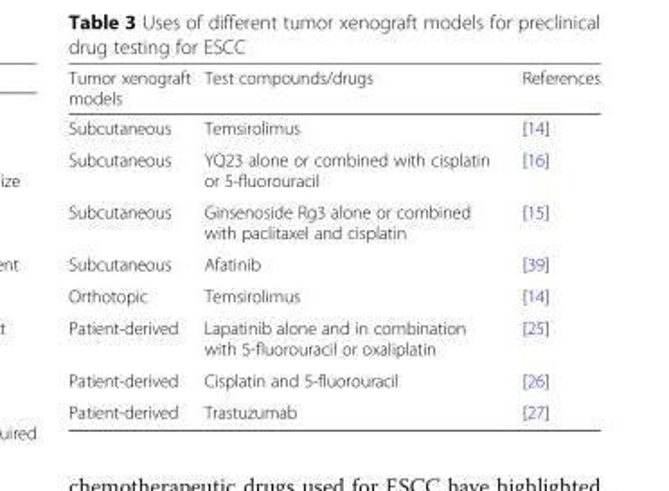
<table><thead><tr><td>Tumor xenograft models</td><td>Test compounds/drugs</td><td>References</td></tr></thead><tbody><tr><td>Subcutaneous</td><td>Temsirolimus</td><td>[14]</td></tr><tr><td>Subcutaneous</td><td>YQ23 alone or combined with cisplatin or 5-fluorouracil</td><td>[16]</td></tr><tr><td>Subcutaneous</td><td>Ginsenoside Rg3 alone or combined with paclitaxel and cisplatin</td><td>[15]</td></tr><tr><td>Subcutaneous</td><td>Afatinib</td><td>[39]</td></tr><tr><td>Orthotopic</td><td>Temsirolimus</td><td>[14]</td></tr><tr><td>Patient-derived</td><td>Lapatinib alone and in combination with 5-fluorouracil or oxaliplatin</td><td>[25]</td></tr><tr><td>Patient-derived</td><td>Cisplatin and 5-fluorouracil</td><td>[26]</td></tr><tr><td>Patient-derived</td><td>Trastuzumab</td><td>[27]</td></tr></tbody></table>